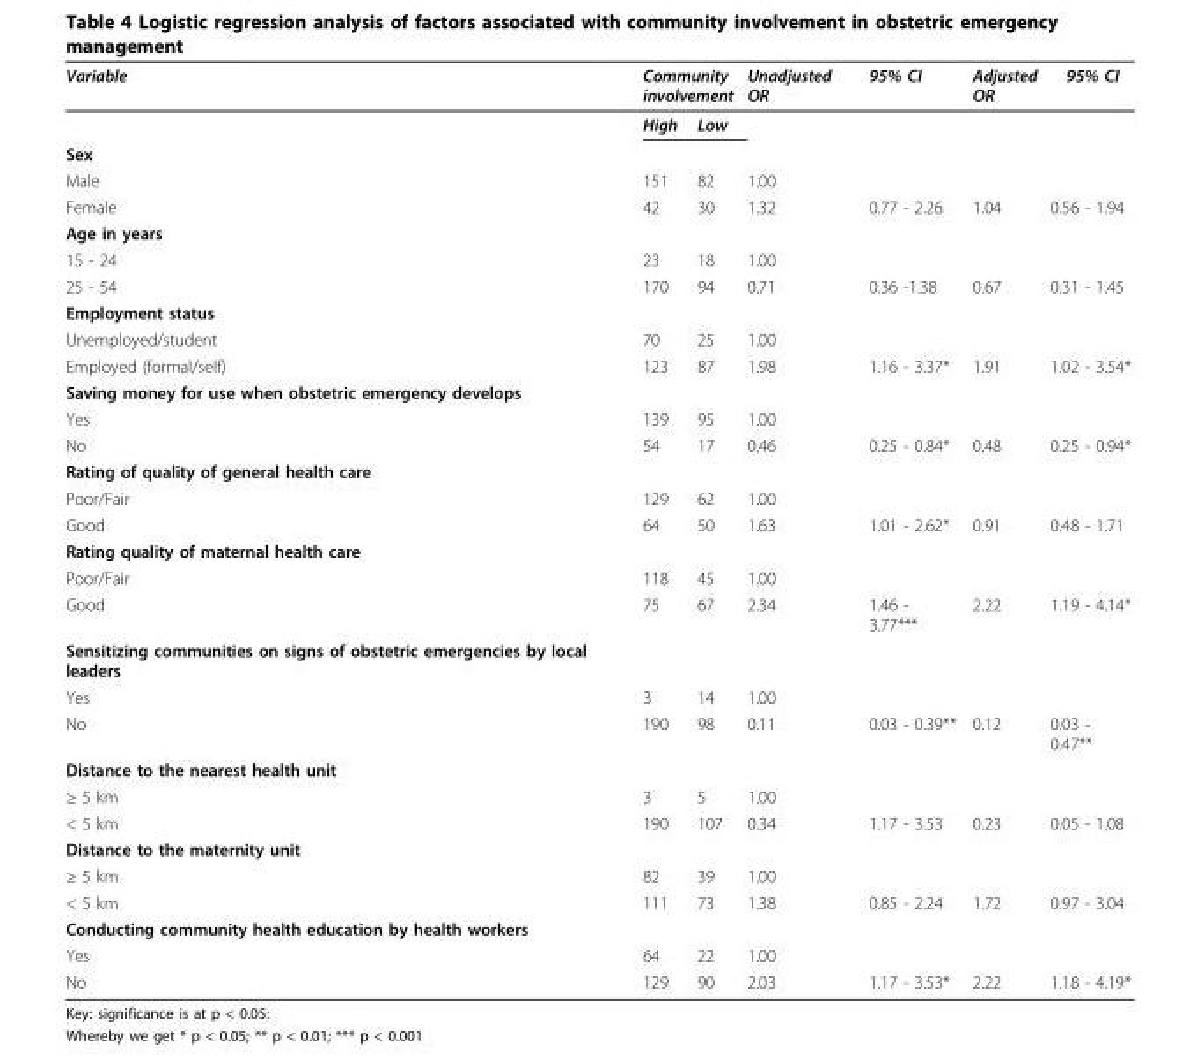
<table><thead><tr><td rowspan="2">Variable</td><td colspan="2">Community involvement</td><td rowspan="2">Unadjusted OR</td><td rowspan="2">95% CI</td><td rowspan="2">Adjusted OR</td><td rowspan="2">95% CI</td></tr><tr><td>High</td><td>Low</td></tr></thead><tbody><tr><td colspan="7">Sex</td></tr><tr><td>Male</td><td>151</td><td>82</td><td>1.00</td><td></td><td></td><td></td></tr><tr><td>Female</td><td>42</td><td>30</td><td>1.32</td><td>0.77 - 2.26</td><td>1.04</td><td>0.56 - 1.94</td></tr><tr><td colspan="7">Age in years</td></tr><tr><td>15 - 24</td><td>23</td><td>18</td><td>1.00</td><td></td><td></td><td></td></tr><tr><td>25 - 54</td><td>170</td><td>94</td><td>0.71</td><td>0.36 -1.38</td><td>0.67</td><td>0.31 - 1.45</td></tr><tr><td colspan="7">Employment status</td></tr><tr><td>Unemployed/student</td><td>70</td><td>25</td><td>1.00</td><td></td><td></td><td></td></tr><tr><td>Employed (formal/self)</td><td>123</td><td>87</td><td>1.98</td><td>1.16 - 3.37*</td><td>1.91</td><td>1.02 - 3.54*</td></tr><tr><td colspan="7">Saving money for use when obstetric emergency develops</td></tr><tr><td>Yes</td><td>139</td><td>95</td><td>1.00</td><td></td><td></td><td></td></tr><tr><td>No</td><td>54</td><td>17</td><td>0.46</td><td>0.25 - 0.84*</td><td>0.48</td><td>0.25 - 0.94*</td></tr><tr><td colspan="7">Rating of quality of general health care</td></tr><tr><td>Poor/Fair</td><td>129</td><td>62</td><td>1.00</td><td></td><td></td><td></td></tr><tr><td>Good</td><td>64</td><td>50</td><td>1.63</td><td>1.01 - 2.62*</td><td>0.91</td><td>0.48 - 1.71</td></tr><tr><td colspan="7">Rating quality of maternal health care</td></tr><tr><td>Poor/Fair</td><td>118</td><td>45</td><td>1.00</td><td></td><td></td><td></td></tr><tr><td>Good</td><td>75</td><td>67</td><td>2.34</td><td>1.46 - 3.77***</td><td>2.22</td><td>1.19 - 4.14*</td></tr><tr><td colspan="7">Sensitizing communities on signs of obstetric emergencies by local leaders</td></tr><tr><td>Yes</td><td>3</td><td>14</td><td>1.00</td><td></td><td></td><td></td></tr><tr><td>No</td><td>190</td><td>98</td><td>0.11</td><td>0.03 - 0.39**</td><td>0.12</td><td>0.03 - 0.47**</td></tr><tr><td colspan="7">Distance to the nearest health unit</td></tr><tr><td>≥ 5 km</td><td>3</td><td>5</td><td>1.00</td><td></td><td></td><td></td></tr><tr><td>&lt; 5 km</td><td>190</td><td>107</td><td>0.34</td><td>1.17 - 3.53</td><td>0.23</td><td>0.05 - 1.08</td></tr><tr><td colspan="7">Distance to the maternity unit</td></tr><tr><td>≥ 5 km</td><td>82</td><td>39</td><td>1.00</td><td></td><td></td><td></td></tr><tr><td>&lt; 5 km</td><td>111</td><td>73</td><td>1.38</td><td>0.85 - 2.24</td><td>1.72</td><td>0.97 - 3.04</td></tr><tr><td colspan="7">Conducting community health education by health workers</td></tr><tr><td>Yes</td><td>64</td><td>22</td><td>1.00</td><td></td><td></td><td></td></tr><tr><td>No</td><td>129</td><td>90</td><td>2.03</td><td>1.17 - 3.53*</td><td>2.22</td><td>1.18 - 4.19*</td></tr></tbody></table>